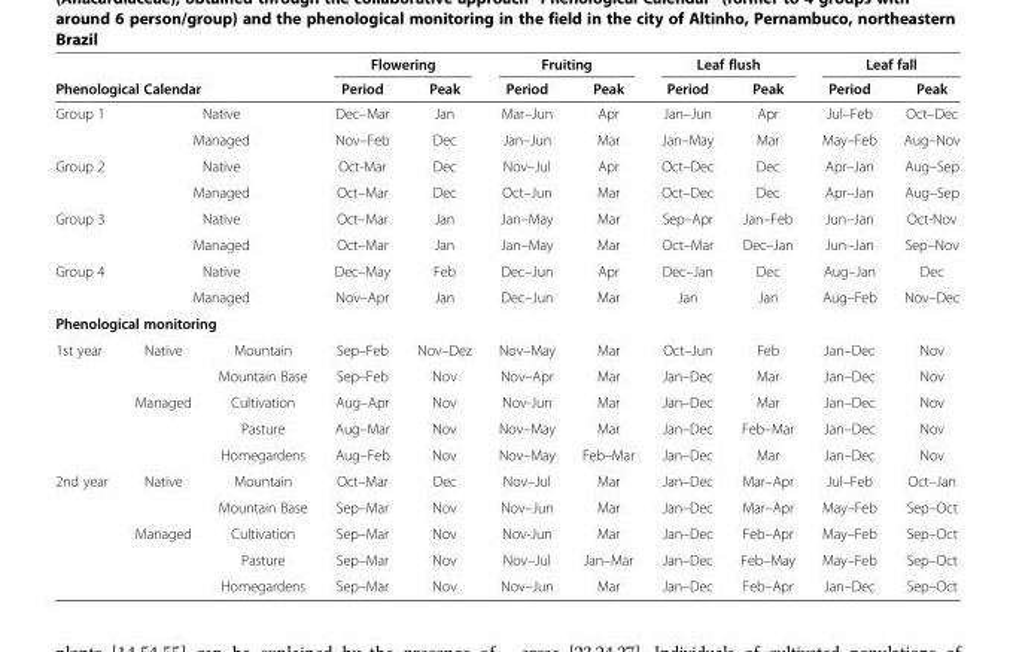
<table><thead><tr><td></td><td></td><td></td><td colspan="2">Flowering</td><td colspan="2">Fruiting</td><td colspan="2">Leaf flush</td><td colspan="2">Leaf fall</td></tr><tr><td colspan="3">Phenological Calendar</td><td>Period</td><td>Peak</td><td>Period</td><td>Peak</td><td>Period</td><td>Peak</td><td>Period</td><td>Peak</td></tr></thead><tbody><tr><td rowspan="2">Group 1</td><td colspan="2">Native</td><td>Dec–Mar</td><td>Jan</td><td>Mar–Jun</td><td>Apr</td><td>Jan–Jun</td><td>Apr</td><td>Jul–Feb</td><td>Oct–Dec</td></tr><tr><td colspan="2">Managed</td><td>Nov–Feb</td><td>Dec</td><td>Jan–Jun</td><td>Mar</td><td>Jan–May</td><td>Mar</td><td>May–Feb</td><td>Aug–Nov</td></tr><tr><td rowspan="2">Group 2</td><td colspan="2">Native</td><td>Oct-Mar</td><td>Dec</td><td>Nov–Jul</td><td>Apr</td><td>Oct–Dec</td><td>Dec</td><td>Apr–Jan</td><td>Aug–Sep</td></tr><tr><td colspan="2">Managed</td><td>Oct–Mar</td><td>Dec</td><td>Oct–Jun</td><td>Mar</td><td>Oct–Dec</td><td>Dec</td><td>Apr–Jan</td><td>Aug–Sep</td></tr><tr><td rowspan="2">Group 3</td><td colspan="2">Native</td><td>Oct–Mar</td><td>Jan</td><td>Jan–May</td><td>Mar</td><td>Sep–Apr</td><td>Jan–Feb</td><td>Jun–Jan</td><td>Oct-Nov</td></tr><tr><td colspan="2">Managed</td><td>Oct–Mar</td><td>Jan</td><td>Jan–May</td><td>Mar</td><td>Oct–Mar</td><td>Dec–Jan</td><td>Jun–Jan</td><td>Sep–Nov</td></tr><tr><td rowspan="2">Group 4</td><td colspan="2">Native</td><td>Dec–May</td><td>Feb</td><td>Dec–Jun</td><td>Apr</td><td>Dec–Jan</td><td>Dec</td><td>Aug–Jan</td><td>Dec</td></tr><tr><td colspan="2">Managed</td><td>Nov–Apr</td><td>Jan</td><td>Dec–Jun</td><td>Mar</td><td>Jan</td><td>Jan</td><td>Aug–Feb</td><td>Nov–Dec</td></tr><tr><td colspan="11">Phenological monitoring</td></tr><tr><td rowspan="5">1st year</td><td>Native</td><td>Mountain</td><td>Sep–Feb</td><td>Nov–Dez</td><td>Nov–May</td><td>Mar</td><td>Oct–Jun</td><td>Feb</td><td>Jan–Dec</td><td>Nov</td></tr><tr><td></td><td>Mountain Base</td><td>Sep–Feb</td><td>Nov</td><td>Nov–Apr</td><td>Mar</td><td>Jan–Dec</td><td>Mar</td><td>Jan–Dec</td><td>Nov</td></tr><tr><td>Managed</td><td>Cultivation</td><td>Aug–Apr</td><td>Nov</td><td>Nov-Jun</td><td>Mar</td><td>Jan–Dec</td><td>Mar</td><td>Jan–Dec</td><td>Nov</td></tr><tr><td></td><td>Pasture</td><td>Aug–Mar</td><td>Nov</td><td>Nov–May</td><td>Mar</td><td>Jan–Dec</td><td>Feb–Mar</td><td>Jan–Dec</td><td>Nov</td></tr><tr><td></td><td>Homegardens</td><td>Aug–Feb</td><td>Nov</td><td>Nov–May</td><td>Feb–Mar</td><td>Jan–Dec</td><td>Mar</td><td>Jan–Dec</td><td>Nov</td></tr><tr><td rowspan="5">2nd year</td><td>Native</td><td>Mountain</td><td>Oct–Mar</td><td>Dec</td><td>Nov–Jul</td><td>Mar</td><td>Jan–Dec</td><td>Mar–Apr</td><td>Jul–Feb</td><td>Oct–Jan</td></tr><tr><td></td><td>Mountain Base</td><td>Sep–Mar</td><td>Nov</td><td>Nov–Jun</td><td>Mar</td><td>Jan–Dec</td><td>Mar–Apr</td><td>May–Feb</td><td>Sep–Oct</td></tr><tr><td>Managed</td><td>Cultivation</td><td>Sep–Mar</td><td>Nov</td><td>Nov-Jun</td><td>Mar</td><td>Jan–Dec</td><td>Feb–Apr</td><td>May–Feb</td><td>Sep–Oct</td></tr><tr><td></td><td>Pasture</td><td>Sep–Mar</td><td>Nov</td><td>Nov–Jul</td><td>Jan–Mar</td><td>Jan–Dec</td><td>Feb–May</td><td>May–Feb</td><td>Sep–Oct</td></tr><tr><td></td><td>Homegardens</td><td>Sep–Mar</td><td>Nov</td><td>Nov–Jun</td><td>Mar</td><td>Jan–Dec</td><td>Feb–Apr</td><td>Jan–Dec</td><td>Sep–Oct</td></tr></tbody></table>